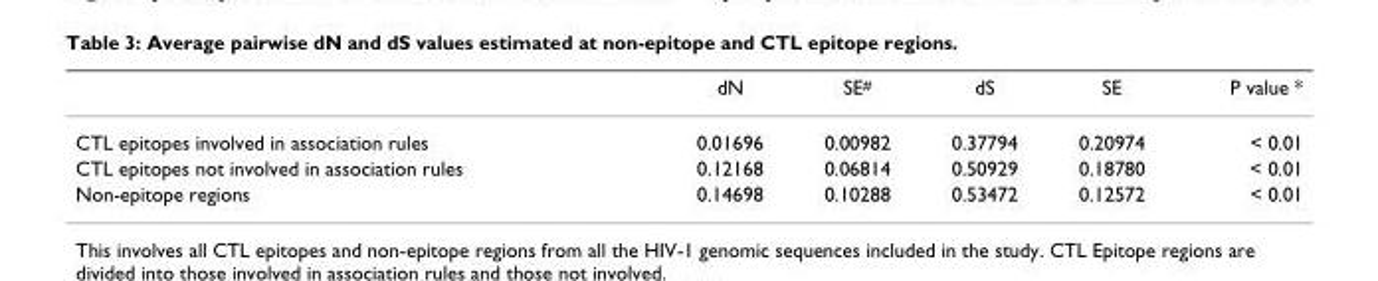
<table><thead><tr><td></td><td>dN</td><td>SE<sup>#</sup></td><td>dS</td><td>SE</td><td>P value *</td></tr></thead><tbody><tr><td>CTL epitopes involved in association rules</td><td>0.01696</td><td>0.00982</td><td>0.37794</td><td>0.20974</td><td>&lt; 0.01</td></tr><tr><td>CTL epitopes not involved in association rules</td><td>0.12168</td><td>0.06814</td><td>0.50929</td><td>0.18780</td><td>&lt; 0.01</td></tr><tr><td>Non-epitope regions</td><td>0.14698</td><td>0.10288</td><td>0.53472</td><td>0.12572</td><td>&lt; 0.01</td></tr></tbody></table>